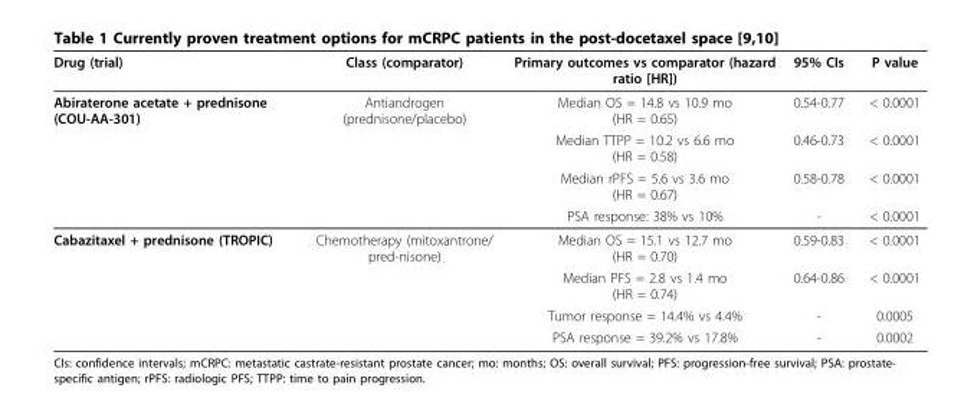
<table><thead><tr><td>Drug (trial)</td><td>Class (comparator)</td><td>Primary outcomes vs comparator (hazard ratio [HR])</td><td>95% CIs</td><td>P value</td></tr></thead><tbody><tr><td rowspan="4">Abiraterone acetate + prednisone (COU-AA-301)</td><td>Antiandrogen (prednisone/placebo)</td><td>Median OS = 14.8 vs 10.9 mo (HR = 0.65)</td><td>0.54-0.77</td><td>&lt; 0.0001</td></tr><tr><td></td><td>Median TTPP = 10.2 vs 6.6 mo (HR = 0.58)</td><td>0.46-0.73</td><td>&lt; 0.0001</td></tr><tr><td></td><td>Median rPFS = 5.6 vs 3.6 mo (HR = 0.67)</td><td>0.58-0.78</td><td>&lt; 0.0001</td></tr><tr><td></td><td>PSA response: 38% vs 10%</td><td>-</td><td>&lt; 0.0001</td></tr><tr><td rowspan="4">Cabazitaxel + prednisone (TROPIC)</td><td>Chemotherapy (mitoxantrone/ pred-nisone)</td><td>Median OS = 15.1 vs 12.7 mo (HR = 0.70)</td><td>0.59-0.83</td><td>&lt; 0.0001</td></tr><tr><td></td><td>Median PFS = 2.8 vs 1.4 mo (HR = 0.74)</td><td>0.64-0.86</td><td>&lt; 0.0001</td></tr><tr><td></td><td>Tumor response = 14.4% vs 4.4%</td><td>-</td><td>0.0005</td></tr><tr><td></td><td>PSA response = 39.2% vs 17.8%</td><td>-</td><td>0.0002</td></tr></tbody></table>